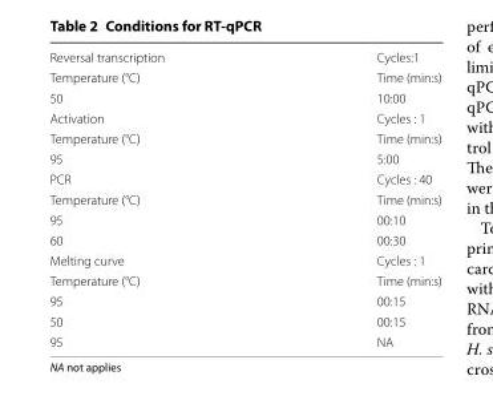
<table><tbody><tr><td>Reversal transcription</td><td>Cycles:1</td></tr><tr><td>Temperature (°C)</td><td>Time (min:s)</td></tr><tr><td>50</td><td>10:00</td></tr><tr><td>Activation</td><td>Cycles : 1</td></tr><tr><td>Temperature (°C)</td><td>Time (min:s)</td></tr><tr><td>95</td><td>5:00</td></tr><tr><td>PCR</td><td>Cycles : 40</td></tr><tr><td>Temperature (°C)</td><td>Time (min:s)</td></tr><tr><td>95</td><td>00:10</td></tr><tr><td>60</td><td>00:30</td></tr><tr><td>Melting curve</td><td>Cycles : 1</td></tr><tr><td>Temperature (°C)</td><td>Time (min:s)</td></tr><tr><td>95</td><td>00:15</td></tr><tr><td>50</td><td>00:15</td></tr><tr><td>95</td><td>NA</td></tr></tbody></table>